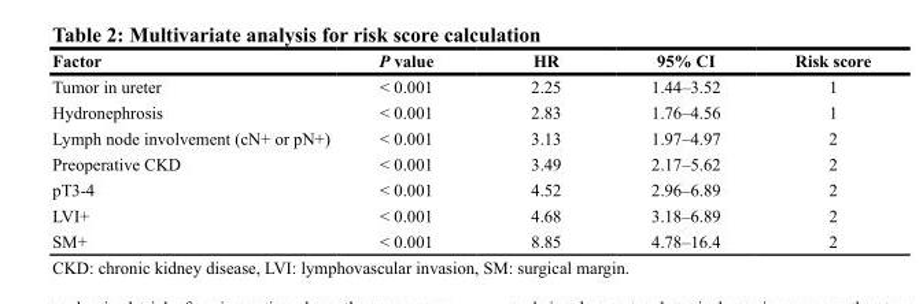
<table><thead><tr><td>Factor</td><td>P value</td><td>HR</td><td>95% CI</td><td>Risk score</td></tr></thead><tbody><tr><td>Tumor in ureter</td><td>&lt; 0.001</td><td>2.25</td><td>1.44–3.52</td><td>1</td></tr><tr><td>Hydronephrosis</td><td>&lt; 0.001</td><td>2.83</td><td>1.76–4.56</td><td>1</td></tr><tr><td>Lymph node involvement (cN+ or pN+)</td><td>&lt; 0.001</td><td>3.13</td><td>1.97–4.97</td><td>2</td></tr><tr><td>Preoperative CKD</td><td>&lt; 0.001</td><td>3.49</td><td>2.17–5.62</td><td>2</td></tr><tr><td>pT3-4</td><td>&lt; 0.001</td><td>4.52</td><td>2.96–6.89</td><td>2</td></tr><tr><td>LVI+</td><td>&lt; 0.001</td><td>4.68</td><td>3.18–6.89</td><td>2</td></tr><tr><td>SM+</td><td>&lt; 0.001</td><td>8.85</td><td>4.78–16.4</td><td>2</td></tr></tbody></table>